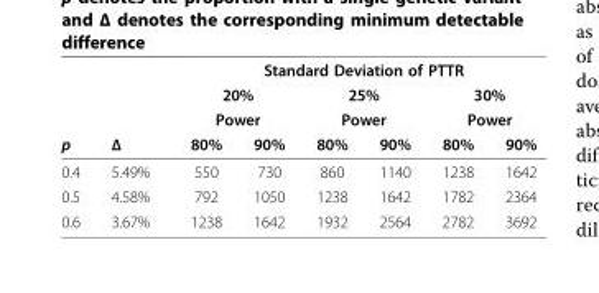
<table><thead><tr><td rowspan="4">p</td><td rowspan="4">Δ</td><td colspan="6">Standard Deviation of PTTR</td></tr><tr><td rowspan="2" colspan="2">20% Power</td><td rowspan="2" colspan="2">25% Power</td><td rowspan="2" colspan="2">30% Power</td></tr><tr></tr><tr><td>80%</td><td>90%</td><td>80%</td><td>90%</td><td>80%</td><td>90%</td></tr></thead><tbody><tr><td>0.4</td><td>5.49%</td><td>550</td><td>730</td><td>860</td><td>1140</td><td>1238</td><td>1642</td></tr><tr><td>0.5</td><td>4.58%</td><td>792</td><td>1050</td><td>1238</td><td>1642</td><td>1782</td><td>2364</td></tr><tr><td>0.6</td><td>3.67%</td><td>1238</td><td>1642</td><td>1932</td><td>2564</td><td>2782</td><td>3692</td></tr></tbody></table>